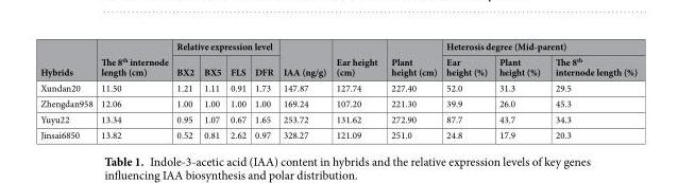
<table><thead><tr><td rowspan="2">Hybrids</td><td rowspan="2">The 8<sup>th</sup> internode length (cm)</td><td colspan="4">Relative expression level</td><td rowspan="2">IAA (ng/g)</td><td rowspan="2">Ear height (cm)</td><td rowspan="2">Plant height (cm)</td><td colspan="3">Heterosis degree (Mid-parent)</td></tr><tr><td>BX2</td><td>BX5</td><td>FLS</td><td>DFR</td><td>Ear height (%)</td><td>Plant height (%)</td><td>The 8<sup>th</sup> internode length (%)</td></tr></thead><tbody><tr><td>Xundan20</td><td>11.50</td><td>1.21</td><td>1.11</td><td>0.91</td><td>1.73</td><td>147.87</td><td>127.74</td><td>227.40</td><td>52.0</td><td>31.3</td><td>29.5</td></tr><tr><td>Zhengdan958</td><td>12.06</td><td>1.00</td><td>1.00</td><td>1.00</td><td>1.00</td><td>169.24</td><td>107.20</td><td>221.30</td><td>39.9</td><td>26.0</td><td>45.3</td></tr><tr><td>Yuyu22</td><td>13.34</td><td>0.95</td><td>1.07</td><td>0.67</td><td>1.65</td><td>253.72</td><td>131.62</td><td>272.90</td><td>87.7</td><td>43.7</td><td>34.3</td></tr><tr><td>Jinsai6850</td><td>13.82</td><td>0.52</td><td>0.81</td><td>2.62</td><td>0.97</td><td>328.27</td><td>121.09</td><td>251.0</td><td>24.8</td><td>17.9</td><td>20.3</td></tr></tbody></table>